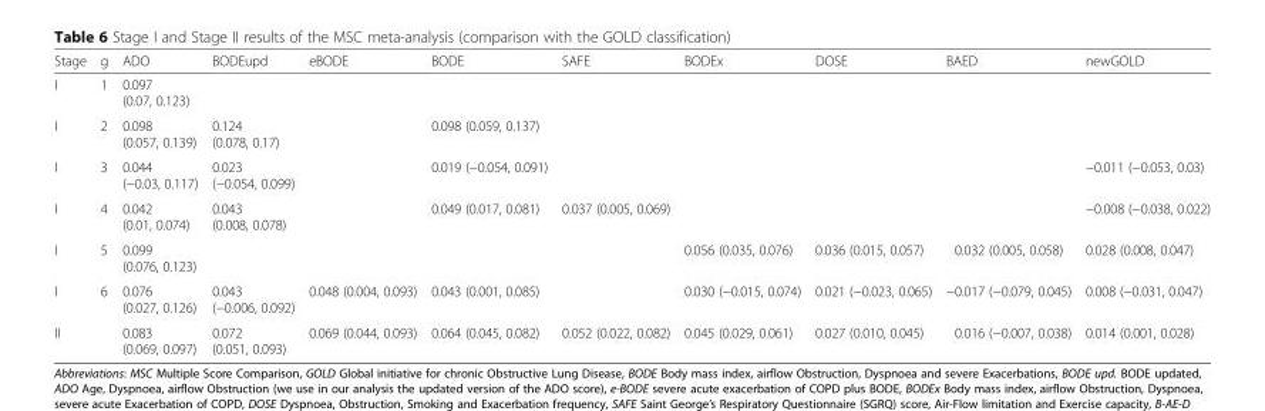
<table><thead><tr><td>Stage</td><td>g</td><td>ADO</td><td>BODEupd</td><td>eBODE</td><td>BODE</td><td>SAFE</td><td>BODEx</td><td>DOSE</td><td>BAED</td><td>newGOLD</td></tr></thead><tbody><tr><td>I</td><td>1</td><td>0.097 (0.07, 0.123)</td><td></td><td></td><td></td><td></td><td></td><td></td><td></td><td></td></tr><tr><td>I</td><td>2</td><td>0.098 (0.057, 0.139)</td><td>0.124 (0.078, 0.17)</td><td></td><td>0.098 (0.059, 0.137)</td><td></td><td></td><td></td><td></td><td></td></tr><tr><td>I</td><td>3</td><td>0.044 (−0.03, 0.117)</td><td>0.023 (−0.054, 0.099)</td><td></td><td>0.019 (−0.054, 0.091)</td><td></td><td></td><td></td><td></td><td>−0.011 (−0.053, 0.03)</td></tr><tr><td>I</td><td>4</td><td>0.042 (0.01, 0.074)</td><td>0.043 (0.008, 0.078)</td><td></td><td>0.049 (0.017, 0.081)</td><td>0.037 (0.005, 0.069)</td><td></td><td></td><td></td><td>−0.008 (−0.038, 0.022)</td></tr><tr><td>I</td><td>5</td><td>0.099 (0.076, 0.123)</td><td></td><td></td><td></td><td></td><td>0.056 (0.035, 0.076)</td><td>0.036 (0.015, 0.057)</td><td>0.032 (0.005, 0.058)</td><td>0.028 (0.008, 0.047)</td></tr><tr><td>I</td><td>6</td><td>0.076 (0.027, 0.126)</td><td>0.043 (−0.006, 0.092)</td><td>0.048 (0.004, 0.093)</td><td>0.043 (0.001, 0.085)</td><td></td><td>0.030 (−0.015, 0.074)</td><td>0.021 (−0.023, 0.065)</td><td>−0.017 (−0.079, 0.045)</td><td>0.008 (−0.031, 0.047)</td></tr><tr><td>II</td><td></td><td>0.083 (0.069, 0.097)</td><td>0.072 (0.051, 0.093)</td><td>0.069 (0.044, 0.093)</td><td>0.064 (0.045, 0.082)</td><td>0.052 (0.022, 0.082)</td><td>0.045 (0.029, 0.061)</td><td>0.027 (0.010, 0.045)</td><td>0.016 (−0.007, 0.038)</td><td>0.014 (0.001, 0.028)</td></tr></tbody></table>